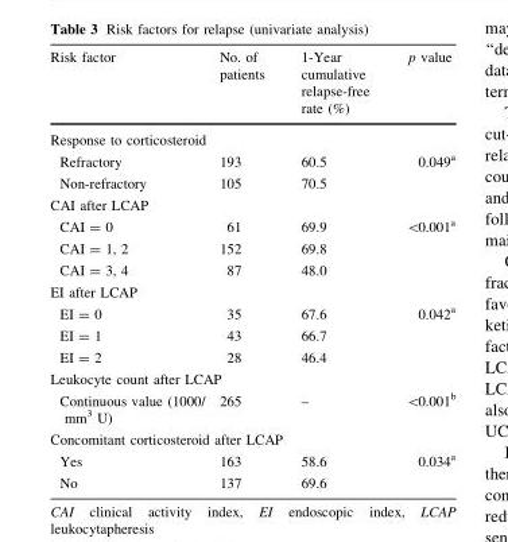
<table><thead><tr><td>Risk factor</td><td>No. of patients</td><td>1-Year cumulative relapse-free rate (%)</td><td>p value</td></tr></thead><tbody><tr><td colspan="4">Response to corticosteroid</td></tr><tr><td>Refractory</td><td>193</td><td>60.5</td><td rowspan="2">0.049<sup>a</sup></td></tr><tr><td>Non-refractory</td><td>105</td><td>70.5</td></tr><tr><td colspan="4">CAI after LCAP</td></tr><tr><td>CAI = 0</td><td>61</td><td>69.9</td><td rowspan="3">&lt;0.001<sup>a</sup></td></tr><tr><td>CAI = 1, 2</td><td>152</td><td>69.8</td></tr><tr><td>CAI = 3, 4</td><td>87</td><td>48.0</td></tr><tr><td colspan="4">EI after LCAP</td></tr><tr><td>EI = 0</td><td>35</td><td>67.6</td><td rowspan="3">0.042<sup>a</sup></td></tr><tr><td>EI = 1</td><td>43</td><td>66.7</td></tr><tr><td>EI = 2</td><td>28</td><td>46.4</td></tr><tr><td colspan="4">Leukocyte count after LCAP</td></tr><tr><td>Continuous value (1000/ mm<sup>3</sup> U)</td><td>265</td><td>–</td><td>&lt;0.001<sup>b</sup></td></tr><tr><td colspan="4">Concomitant corticosteroid after LCAP</td></tr><tr><td>Yes</td><td>163</td><td>58.6</td><td rowspan="2">0.034<sup>a</sup></td></tr><tr><td>No</td><td>137</td><td>69.6</td></tr></tbody></table>